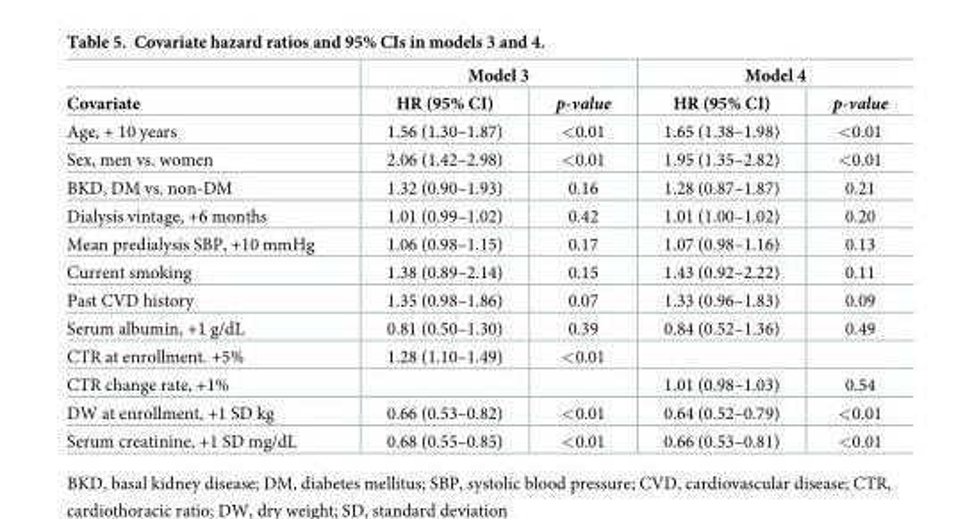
<table><thead><tr><td rowspan="2">Covariate</td><td colspan="2">Model 3</td><td colspan="2">Model 4</td></tr><tr><td>HR (95% CI)</td><td>p-value</td><td>HR (95% CI)</td><td>p-value</td></tr></thead><tbody><tr><td>Age, + 10 years</td><td>1.56 (1.30–1.87)</td><td>&lt;0.01</td><td>1.65 (1.38–1.98)</td><td>&lt;0.01</td></tr><tr><td>Sex, men vs. women</td><td>2.06 (1.42–2.98)</td><td>&lt;0.01</td><td>1.95 (1.35–2.82)</td><td>&lt;0.01</td></tr><tr><td>BKD, DM vs. non-DM</td><td>1.32 (0.90–1.93)</td><td>0.16</td><td>1.28 (0.87–1.87)</td><td>0.21</td></tr><tr><td>Dialysis vintage, +6 months</td><td>1.01 (0.99–1.02)</td><td>0.42</td><td>1.01 (1.00–1.02)</td><td>0.20</td></tr><tr><td>Mean predialysis SBP, +10 mmHg</td><td>1.06 (0.98–1.15)</td><td>0.17</td><td>1.07 (0.98–1.16)</td><td>0.13</td></tr><tr><td>Current smoking</td><td>1.38 (0.89–2.14)</td><td>0.15</td><td>1.43 (0.92–2.22)</td><td>0.11</td></tr><tr><td>Past CVD history</td><td>1.35 (0.98–1.86)</td><td>0.07</td><td>1.33 (0.96–1.83)</td><td>0.09</td></tr><tr><td>Serum albumin, +1 g/dL</td><td>0.81 (0.50–1.30)</td><td>0.39</td><td>0.84 (0.52–1.36)</td><td>0.49</td></tr><tr><td>CTR at enrollment. +5%</td><td>1.28 (1.10–1.49)</td><td>&lt;0.01</td><td></td><td></td></tr><tr><td>CTR change rate, +1%</td><td></td><td></td><td>1.01 (0.98–1.03)</td><td>0.54</td></tr><tr><td>DW at enrollment, +1 SD kg</td><td>0.66 (0.53–0.82)</td><td>&lt;0.01</td><td>0.64 (0.52–0.79)</td><td>&lt;0.01</td></tr><tr><td>Serum creatinine, +1 SD mg/dL</td><td>0.68 (0.55–0.85)</td><td>&lt;0.01</td><td>0.66 (0.53–0.81)</td><td>&lt;0.01</td></tr></tbody></table>